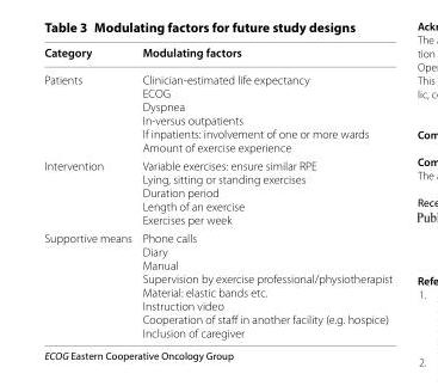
<table><thead><tr><td>Category</td><td>Modulating factors</td></tr></thead><tbody><tr><td>Patients</td><td>Clinician-estimated life expectancy ECOG Dyspnea In-versus outpatients If inpatients: involvement of one or more wards Amount of exercise experience</td></tr><tr><td>Intervention</td><td>Variable exercises: ensure similar RPE Lying, sitting or standing exercises Duration period Length of an exercise Exercises per week</td></tr><tr><td>Supportive means</td><td>Phone calls Diary Manual Supervision by exercise professional/physiotherapist Material: elastic bands etc. Instruction video Cooperation of staff in another facility (e.g. hospice) Inclusion of caregiver</td></tr></tbody></table>